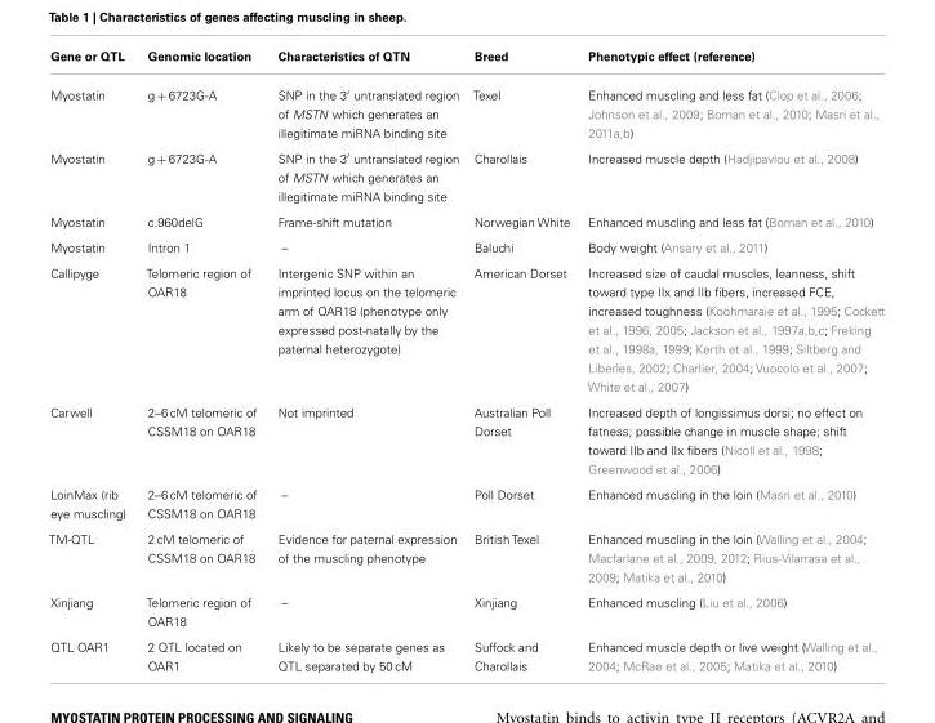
<table><thead><tr><td>Gene or QTL</td><td>Genomic location</td><td>Characteristics of QTN</td><td>Breed</td><td>Phenotypic effect (reference)</td></tr></thead><tbody><tr><td>Myostatin</td><td>g + 6723G-A</td><td>SNP in the 3′ untranslated region of MSTN which generates an illegitimate miRNA binding site</td><td>Texel</td><td>Enhanced muscling and less fat (Clop et al., 2006; Johnson et al., 2009; Boman et al., 2010; Masri et al., 2011a,b)</td></tr><tr><td>Myostatin</td><td>g + 6723G-A</td><td>SNP in the 3′ untranslated region of MSTN which generates an illegitimate miRNA binding site</td><td>Charollais</td><td>Increased muscle depth (Hadjipavlou et al., 2008)</td></tr><tr><td>Myostatin</td><td>c.960delG</td><td>Frame-shift mutation</td><td>Norwegian White</td><td>Enhanced muscling and less fat (Boman et al., 2010)</td></tr><tr><td>Myostatin</td><td>Intron 1</td><td>–</td><td>Baluchi</td><td>Body weight (Ansary et al., 2011)</td></tr><tr><td>Callipyge</td><td>Telomeric region of OAR18</td><td>Intergenic SNP within an imprinted locus on the telomeric arm of OAR18 (phenotype only expressed post-natally by the paternal heterozygote)</td><td>American Dorset</td><td>Increased size of caudal muscles, leanness, shift toward type IIx and IIb fibers, increased FCE, increased toughness (Koohmaraie et al., 1995; Cockett et al., 1996, 2005; Jackson et al., 1997a,b,c; Freking et al., 1998a, 1999; Kerth et al., 1999; Siltberg and Liberles, 2002; Charlier, 2004; Vuocolo et al., 2007; White et al., 2007)</td></tr><tr><td>Carwell</td><td>2–6 cM telomeric of CSSM18 on OAR18</td><td>Not imprinted</td><td>Australian Poll Dorset</td><td>Increased depth of longissimus dorsi; no effect on fatness; possible change in muscle shape; shift toward IIb and IIx fibers (Nicoll et al., 1998; Greenwood et al., 2006)</td></tr><tr><td>LoinMax (rib eye muscling)</td><td>2–6 cM telomeric of CSSM18 on OAR18</td><td>–</td><td>Poll Dorset</td><td>Enhanced muscling in the loin (Masri et al., 2010)</td></tr><tr><td>TM-QTL</td><td>2 cM telomeric of CSSM18 on OAR18</td><td>Evidence for paternal expression of the muscling phenotype</td><td>British Texel</td><td>Enhanced muscling in the loin (Walling et al., 2004; Macfarlane et al., 2009, 2012; Rius-Vilarrasa et al., 2009; Matika et al., 2010)</td></tr><tr><td>Xinjiang</td><td>Telomeric region of OAR18</td><td>–</td><td>Xinjiang</td><td>Enhanced muscling (Liu et al., 2006)</td></tr><tr><td>QTL OAR1</td><td>2 QTL located on OAR1</td><td>Likely to be separate genes as QTL separated by 50 cM</td><td>Suffock and Charollais</td><td>Enhanced muscle depth or live weight (Walling et al., 2004; McRae et al., 2005; Matika et al., 2010)</td></tr></tbody></table>